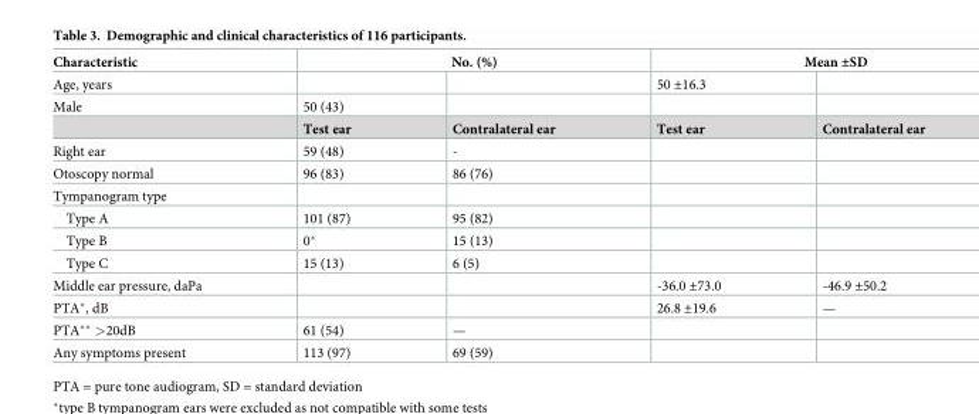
<table><thead><tr><td rowspan="2">Characteristic Age, years</td><td colspan="2">No. (%)</td><td colspan="2">Mean ±SD</td></tr><tr><td></td><td></td><td>50 ±16.3</td><td></td></tr></thead><tbody><tr><td rowspan="2">Male</td><td>50 (43)</td><td></td><td></td><td></td></tr><tr><td>Test ear</td><td>Contralateral ear</td><td>Test ear</td><td>Contralateral ear</td></tr><tr><td>Right ear</td><td>59 (48)</td><td>-</td><td></td><td></td></tr><tr><td>Otoscopy normal</td><td>96 (83)</td><td>86 (76)</td><td></td><td></td></tr><tr><td colspan="5">Tympanogram type</td></tr><tr><td>Type A</td><td>101 (87)</td><td>95 (82)</td><td></td><td></td></tr><tr><td>Type B</td><td>0*</td><td>15 (13)</td><td></td><td></td></tr><tr><td>Type C</td><td>15 (13)</td><td>6 (5)</td><td></td><td></td></tr><tr><td>Middle ear pressure, daPa</td><td></td><td></td><td>-36.0 ±73.0</td><td>-46.9 ±50.2</td></tr><tr><td>PTA*, dB</td><td></td><td></td><td>26.8 ±19.6</td><td>—</td></tr><tr><td>PTA** &gt;20dB</td><td>61 (54)</td><td>—</td><td></td><td></td></tr><tr><td>Any symptoms present</td><td>113 (97)</td><td>69 (59)</td><td></td><td></td></tr></tbody></table>